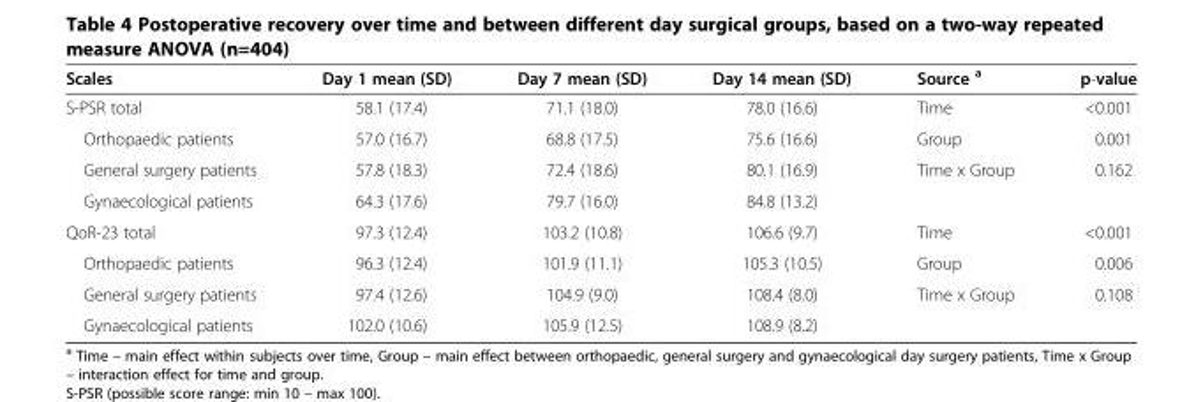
<table><thead><tr><td>Scales</td><td>Day 1 mean (SD)</td><td>Day 7 mean (SD)</td><td>Day 14 mean (SD)</td><td>Source <sup>a</sup></td><td>p-value</td></tr></thead><tbody><tr><td>S-PSR total</td><td>58.1 (17.4)</td><td>71.1 (18.0)</td><td>78.0 (16.6)</td><td>Time</td><td>&lt;0.001</td></tr><tr><td>Orthopaedic patients</td><td>57.0 (16.7)</td><td>68.8 (17.5)</td><td>75.6 (16.6)</td><td>Group</td><td>0.001</td></tr><tr><td>General surgery patients</td><td>57.8 (18.3)</td><td>72.4 (18.6)</td><td>80.1 (16.9)</td><td>Time x Group</td><td>0.162</td></tr><tr><td>Gynaecological patients</td><td>64.3 (17.6)</td><td>79.7 (16.0)</td><td>84.8 (13.2)</td><td></td><td></td></tr><tr><td>QoR-23 total</td><td>97.3 (12.4)</td><td>103.2 (10.8)</td><td>106.6 (9.7)</td><td>Time</td><td>&lt;0.001</td></tr><tr><td>Orthopaedic patients</td><td>96.3 (12.4)</td><td>101.9 (11.1)</td><td>105.3 (10.5)</td><td>Group</td><td>0.006</td></tr><tr><td>General surgery patients</td><td>97.4 (12.6)</td><td>104.9 (9.0)</td><td>108.4 (8.0)</td><td>Time x Group</td><td>0.108</td></tr><tr><td>Gynaecological patients</td><td>102.0 (10.6)</td><td>105.9 (12.5)</td><td>108.9 (8.2)</td><td></td><td></td></tr></tbody></table>